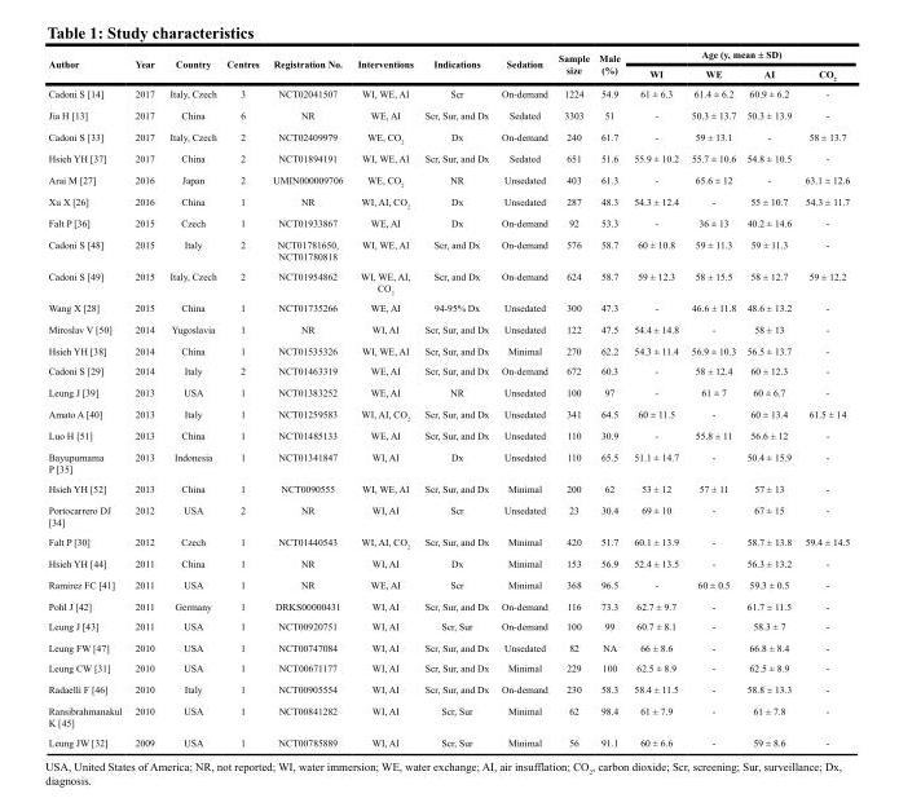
<table><thead><tr><td rowspan="2">Author</td><td rowspan="2">Year</td><td rowspan="2">country</td><td rowspan="2">centres</td><td rowspan="2">registration no.</td><td rowspan="2">Interventions</td><td rowspan="2">Indications</td><td rowspan="2">sedation</td><td rowspan="2">sample size</td><td rowspan="2">Male (%)</td><td colspan="4">Age (y, mean ± sd)</td></tr><tr><td>WI</td><td>We</td><td>AI</td><td>co<sub>2</sub></td></tr></thead><tbody><tr><td>Cadoni S [14]</td><td>2017</td><td>Italy, Czech</td><td>3</td><td>NCT02041507</td><td>WI, WE, AI</td><td>Scr</td><td>On-demand</td><td>1224</td><td>54.9</td><td>61 ± 6.3</td><td>61.4 ± 6.2</td><td>60.9 ± 6.2</td><td>-</td></tr><tr><td>Jia H [13]</td><td>2017</td><td>China</td><td>6</td><td>NR</td><td>WE, AI</td><td>Scr, Sur, and Dx</td><td>Sedated</td><td>3303</td><td>51</td><td>-</td><td>50.3 ± 13.7</td><td>50.3 ± 13.9</td><td>-</td></tr><tr><td>Cadoni S [33]</td><td>2017</td><td>Italy, Czech</td><td>2</td><td>NCT02409979</td><td>WE, CO<sub>2</sub></td><td>Dx</td><td>On-demand</td><td>240</td><td>61.7</td><td>-</td><td>59 ± 13.1</td><td>-</td><td>58 ± 13.7</td></tr><tr><td>Hsieh YH [37]</td><td>2017</td><td>China</td><td>2</td><td>NCT01894191</td><td>WI, WE, AI</td><td>Scr, Sur, and Dx</td><td>Sedated</td><td>651</td><td>51.6</td><td>55.9 ± 10.2</td><td>55.7 ± 10.6</td><td>54.8 ± 10.5</td><td>-</td></tr><tr><td>Arai M [27]</td><td>2016</td><td>Japan</td><td>2</td><td>UMIN000009706</td><td>WE, CO<sub>2</sub></td><td>NR</td><td>Unsedated</td><td>403</td><td>61.3</td><td>-</td><td>65.6 ± 12</td><td>-</td><td>63.1 ± 12.6</td></tr><tr><td>Xu X [26]</td><td>2016</td><td>China</td><td>1</td><td>NR</td><td>WI, AI, CO<sub>2</sub></td><td>Dx</td><td>Unsedated</td><td>287</td><td>48.3</td><td>54.3 ± 12.4</td><td>-</td><td>55 ± 10.7</td><td>54.3 ± 11.7</td></tr><tr><td>Falt P [36]</td><td>2015</td><td>Czech</td><td>1</td><td>NCT01933867</td><td>WE, AI</td><td>Dx</td><td>On-demand</td><td>92</td><td>53.3</td><td>-</td><td>36 ± 13</td><td>40.2 ± 14.6</td><td>-</td></tr><tr><td>Cadoni S [48]</td><td>2015</td><td>Italy</td><td>2</td><td>NCT01781650, NCT01780818</td><td>WI, WE, AI</td><td>Scr, and Dx</td><td>On-demand</td><td>576</td><td>58.7</td><td>60 ± 10.8</td><td>59 ± 11.3</td><td>59 ± 11.3</td><td>-</td></tr><tr><td>Cadoni S [49]</td><td>2015</td><td>Italy, Czech</td><td>2</td><td>NCT01954862</td><td>WI, WE, AI, CO<sub>2</sub></td><td>Scr, and Dx</td><td>On-demand</td><td>624</td><td>58.7</td><td>59 ± 12.3</td><td>58 ± 15.5</td><td>58 ± 12.7</td><td>59 ± 12.2</td></tr><tr><td>Wang X [28]</td><td>2015</td><td>China</td><td>1</td><td>NCT01735266</td><td>WE, AI</td><td>94-95% Dx</td><td>Unsedated</td><td>300</td><td>47.3</td><td>-</td><td>46.6 ± 11.8</td><td>48.6 ± 13.2</td><td>-</td></tr><tr><td>Miroslav V [50]</td><td>2014</td><td>Yugoslavia</td><td>1</td><td>NR</td><td>WI, AI</td><td>Scr, Sur, and Dx</td><td>Unsedated</td><td>122</td><td>47.5</td><td>54.4 ± 14.8</td><td>-</td><td>58 ± 13</td><td>-</td></tr><tr><td>Hsieh YH [38]</td><td>2014</td><td>China</td><td>1</td><td>NCT01535326</td><td>WI, WE, AI</td><td>Scr, Sur, and Dx</td><td>Minimal</td><td>270</td><td>62.2</td><td>54.3 ± 11.4</td><td>56.9 ± 10.3</td><td>56.5 ± 13.7</td><td>-</td></tr><tr><td>Cadoni S [29]</td><td>2014</td><td>Italy</td><td>2</td><td>NCT01463319</td><td>WE, AI</td><td>Scr, Sur, and Dx</td><td>On-demand</td><td>672</td><td>60.3</td><td>-</td><td>58 ± 12.4</td><td>60 ± 12.3</td><td>-</td></tr><tr><td>Leung J [39]</td><td>2013</td><td>USA</td><td>1</td><td>NCT01383252</td><td>WE, AI</td><td>NR</td><td>Unsedated</td><td>100</td><td>97</td><td>-</td><td>61 ± 7</td><td>60 ± 6.7</td><td>-</td></tr><tr><td>Amato A [40]</td><td>2013</td><td>Italy</td><td>1</td><td>NCT01259583</td><td>WI, AI, CO<sub>2</sub></td><td>Scr, Sur, and Dx</td><td>Unsedated</td><td>341</td><td>64.5</td><td>60 ± 11.5</td><td>-</td><td>60 ± 13.4</td><td>61.5 ± 14</td></tr><tr><td>Luo H [51]</td><td>2013</td><td>China</td><td>1</td><td>NCT01485133</td><td>WE, AI</td><td>Scr, Sur, and Dx</td><td>Unsedated</td><td>110</td><td>30.9</td><td>-</td><td>55.8 ± 11</td><td>56.6 ± 12</td><td>-</td></tr><tr><td>Bayupurnama P [35]</td><td>2013</td><td>Indonesia</td><td>1</td><td>NCT01341847</td><td>WI, AI</td><td>Dx</td><td>Unsedated</td><td>110</td><td>65.5</td><td>51.1 ± 14.7</td><td>-</td><td>50.4 ± 15.9</td><td>-</td></tr><tr><td>Hsieh YH [52]</td><td>2013</td><td>China</td><td>1</td><td>NCT0090555</td><td>WI, WE, AI</td><td>Scr, Sur, and Dx</td><td>Minimal</td><td>200</td><td>62</td><td>53 ± 12</td><td>57 ± 11</td><td>57 ± 13</td><td>-</td></tr><tr><td>Portocarrero DJ [34]</td><td>2012</td><td>USA</td><td>2</td><td>NR</td><td>WI, AI</td><td>Scr</td><td>Unsedated</td><td>23</td><td>30.4</td><td>69 ± 10</td><td>-</td><td>67 ± 15</td><td>-</td></tr><tr><td>Falt P [30]</td><td>2012</td><td>Czech</td><td>1</td><td>NCT01440543</td><td>WI, AI, CO<sub>2</sub></td><td>Scr, Sur, and Dx</td><td>Minimal</td><td>420</td><td>51.7</td><td>60.1 ± 13.9</td><td>-</td><td>58.7 ± 13.8</td><td>59.4 ± 14.5</td></tr><tr><td>Hsieh YH [44]</td><td>2011</td><td>China</td><td>1</td><td>NR</td><td>WI, AI</td><td>Dx</td><td>Minimal</td><td>153</td><td>56.9</td><td>52.4 ± 13.5</td><td>-</td><td>56.3 ± 13.2</td><td>-</td></tr><tr><td>Ramirez FC [41]</td><td>2011</td><td>USA</td><td>1</td><td>NR</td><td>WE, AI</td><td>Scr</td><td>Minimal</td><td>368</td><td>96.5</td><td>-</td><td>60 ± 0.5</td><td>59.3 ± 0.5</td><td>-</td></tr><tr><td>Pohl J [42]</td><td>2011</td><td>Germany</td><td>1</td><td>DRKS00000431</td><td>WI, AI</td><td>Scr, Sur, and Dx</td><td>On-demand</td><td>116</td><td>73.3</td><td>62.7 ± 9.7</td><td>-</td><td>61.7 ± 11.5</td><td>-</td></tr><tr><td>Leung J [43]</td><td>2011</td><td>USA</td><td>1</td><td>NCT00920751</td><td>WI, AI</td><td>Scr, Sur</td><td>On-demand</td><td>100</td><td>99</td><td>60.7 ± 8.1</td><td>-</td><td>58.3 ± 7</td><td>-</td></tr><tr><td>Leung FW [47]</td><td>2010</td><td>USA</td><td>1</td><td>NCT00747084</td><td>WI, AI</td><td>Scr, Sur, and Dx</td><td>Unsedated</td><td>82</td><td>NA</td><td>66 ± 8.6</td><td>-</td><td>66.8 ± 8.4</td><td>-</td></tr><tr><td>Leung CW [31]</td><td>2010</td><td>USA</td><td>1</td><td>NCT00671177</td><td>WI, AI</td><td>Scr, Sur, and Dx</td><td>Minimal</td><td>229</td><td>100</td><td>62.5 ± 8.9</td><td>-</td><td>62.5 ± 8.9</td><td>-</td></tr><tr><td>Radaelli F [46]</td><td>2010</td><td>Italy</td><td>1</td><td>NCT00905554</td><td>WI, AI</td><td>Scr, Sur, and Dx</td><td>On-demand</td><td>230</td><td>58.3</td><td>58.4 ± 11.5</td><td>-</td><td>58.8 ± 13.3</td><td>-</td></tr><tr><td>Ransibrahmanakul K [45]</td><td>2010</td><td>USA</td><td>1</td><td>NCT00841282</td><td>WI, AI</td><td>Scr, Sur</td><td>Minimal</td><td>62</td><td>98.4</td><td>61 ± 7.9</td><td>-</td><td>61 ± 7.8</td><td>-</td></tr><tr><td>Leung JW [32]</td><td>2009</td><td>USA</td><td>1</td><td>NCT00785889</td><td>WI, AI</td><td>Scr, Sur</td><td>Minimal</td><td>56</td><td>91.1</td><td>60 ± 6.6</td><td>-</td><td>59 ± 8.6</td><td>-</td></tr></tbody></table>